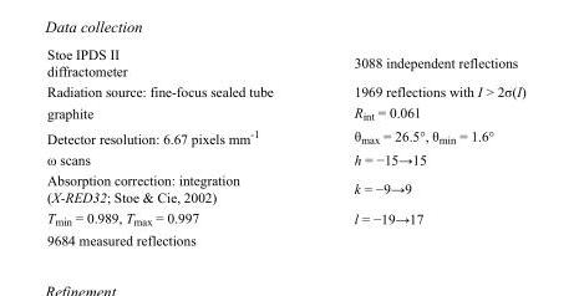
<table><tbody><tr><td>Stoe IPDS II diffractometer</td><td>3088 independent reflections</td></tr><tr><td>Radiation source: fine-focus sealed tube</td><td>1969 reflections with I &gt; 2σ(I)</td></tr><tr><td>graphite</td><td>R<sub>int</sub> = 0.061</td></tr><tr><td>Detector resolution: 6.67 pixels mm<sup>-1</sup></td><td>θ<sub>max</sub> = 26.5°, θ<sub>min</sub> = 1.6°</td></tr><tr><td>ω scans</td><td>h = −15→15</td></tr><tr><td>Absorption correction: integration (X-RED32; Stoe &amp; Cie, 2002)</td><td>k = −9→9</td></tr><tr><td>T<sub>min</sub> = 0.989, T<sub>max</sub> = 0.997</td><td>l = −19→17</td></tr><tr><td>9684 measured reflections</td><td></td></tr></tbody></table>